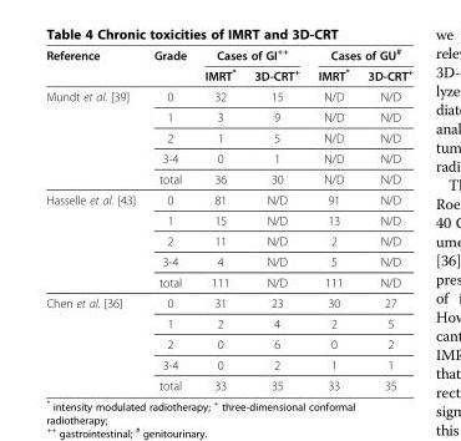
<table><thead><tr><td rowspan="2">Reference</td><td rowspan="2">Grade</td><td colspan="2">Cases of GI<sup>++</sup></td><td colspan="2">Cases of GU<sup>#</sup></td></tr><tr><td>IMRT*</td><td>3D-CRT<sup>+</sup></td><td>IMRT*</td><td>3D-CRT<sup>+</sup></td></tr></thead><tbody><tr><td rowspan="5">Mundt et al. [39]</td><td>0</td><td>32</td><td>15</td><td>N/D</td><td>N/D</td></tr><tr><td>1</td><td>3</td><td>9</td><td>N/D</td><td>N/D</td></tr><tr><td>2</td><td>1</td><td>5</td><td>N/D</td><td>N/D</td></tr><tr><td>3-4</td><td>0</td><td>1</td><td>N/D</td><td>N/D</td></tr><tr><td>total</td><td>36</td><td>30</td><td>N/D</td><td>N/D</td></tr><tr><td rowspan="5">Hasselle et al. [43]</td><td>0</td><td>81</td><td>N/D</td><td>91</td><td>N/D</td></tr><tr><td>1</td><td>15</td><td>N/D</td><td>13</td><td>N/D</td></tr><tr><td>2</td><td>11</td><td>N/D</td><td>2</td><td>N/D</td></tr><tr><td>3-4</td><td>4</td><td>N/D</td><td>5</td><td>N/D</td></tr><tr><td>total</td><td>111</td><td>N/D</td><td>111</td><td>N/D</td></tr><tr><td rowspan="5">Chen et al. [36]</td><td>0</td><td>31</td><td>23</td><td>30</td><td>27</td></tr><tr><td>1</td><td>2</td><td>4</td><td>2</td><td>5</td></tr><tr><td>2</td><td>0</td><td>6</td><td>0</td><td>2</td></tr><tr><td>3-4</td><td>0</td><td>2</td><td>1</td><td>1</td></tr><tr><td>total</td><td>33</td><td>35</td><td>33</td><td>35</td></tr></tbody></table>